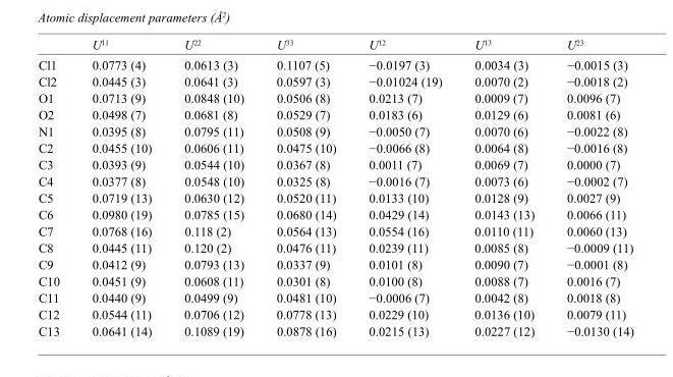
<table><thead><tr><td></td><td>U<sup>11</sup></td><td>U<sup>22</sup></td><td>U<sup>33</sup></td><td>U<sup>12</sup></td><td>U<sup>13</sup></td><td>U<sup>23</sup></td></tr></thead><tbody><tr><td>Cl1</td><td>0.0773 (4)</td><td>0.0613 (3)</td><td>0.1107 (5)</td><td>−0.0197 (3)</td><td>0.0034 (3)</td><td>−0.0015 (3)</td></tr><tr><td>Cl2</td><td>0.0445 (3)</td><td>0.0641 (3)</td><td>0.0597 (3)</td><td>−0.01024 (19)</td><td>0.0070 (2)</td><td>−0.0018 (2)</td></tr><tr><td>O1</td><td>0.0713 (9)</td><td>0.0848 (10)</td><td>0.0506 (8)</td><td>0.0213 (7)</td><td>0.0009 (7)</td><td>0.0096 (7)</td></tr><tr><td>O2</td><td>0.0498 (7)</td><td>0.0681 (8)</td><td>0.0529 (7)</td><td>0.0183 (6)</td><td>0.0129 (6)</td><td>0.0081 (6)</td></tr><tr><td>N1</td><td>0.0395 (8)</td><td>0.0795 (11)</td><td>0.0508 (9)</td><td>−0.0050 (7)</td><td>0.0070 (6)</td><td>−0.0022 (8)</td></tr><tr><td>C2</td><td>0.0455 (10)</td><td>0.0606 (11)</td><td>0.0475 (10)</td><td>−0.0066 (8)</td><td>0.0064 (8)</td><td>−0.0016 (8)</td></tr><tr><td>C3</td><td>0.0393 (9)</td><td>0.0544 (10)</td><td>0.0367 (8)</td><td>0.0011 (7)</td><td>0.0069 (7)</td><td>0.0000 (7)</td></tr><tr><td>C4</td><td>0.0377 (8)</td><td>0.0548 (10)</td><td>0.0325 (8)</td><td>−0.0016 (7)</td><td>0.0073 (6)</td><td>−0.0002 (7)</td></tr><tr><td>C5</td><td>0.0719 (13)</td><td>0.0630 (12)</td><td>0.0520 (11)</td><td>0.0133 (10)</td><td>0.0128 (9)</td><td>0.0027 (9)</td></tr><tr><td>C6</td><td>0.0980 (19)</td><td>0.0785 (15)</td><td>0.0680 (14)</td><td>0.0429 (14)</td><td>0.0143 (13)</td><td>0.0066 (11)</td></tr><tr><td>C7</td><td>0.0768 (16)</td><td>0.118 (2)</td><td>0.0564 (13)</td><td>0.0554 (16)</td><td>0.0110 (11)</td><td>0.0060 (13)</td></tr><tr><td>C8</td><td>0.0445 (11)</td><td>0.120 (2)</td><td>0.0476 (11)</td><td>0.0239 (11)</td><td>0.0085 (8)</td><td>−0.0009 (11)</td></tr><tr><td>C9</td><td>0.0412 (9)</td><td>0.0793 (13)</td><td>0.0337 (9)</td><td>0.0101 (8)</td><td>0.0090 (7)</td><td>−0.0001 (8)</td></tr><tr><td>C10</td><td>0.0451 (9)</td><td>0.0608 (11)</td><td>0.0301 (8)</td><td>0.0100 (8)</td><td>0.0088 (7)</td><td>0.0016 (7)</td></tr><tr><td>C11</td><td>0.0440 (9)</td><td>0.0499 (9)</td><td>0.0481 (10)</td><td>−0.0006 (7)</td><td>0.0042 (8)</td><td>0.0018 (8)</td></tr><tr><td>C12</td><td>0.0544 (11)</td><td>0.0706 (12)</td><td>0.0778 (13)</td><td>0.0229 (10)</td><td>0.0136 (10)</td><td>0.0079 (11)</td></tr><tr><td>C13</td><td>0.0641 (14)</td><td>0.1089 (19)</td><td>0.0878 (16)</td><td>0.0215 (13)</td><td>0.0227 (12)</td><td>−0.0130 (14)</td></tr></tbody></table>